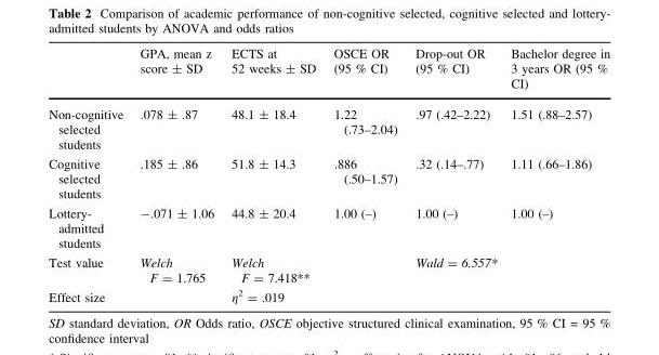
<table><thead><tr><td></td><td>GPA, mean z score ± SD</td><td>ECTS at 52 weeks ± SD</td><td>OSCE OR (95 % CI)</td><td>Drop-out OR (95 % CI)</td><td>Bachelor degree in 3 years OR (95 % CI)</td></tr></thead><tbody><tr><td>Non-cognitive selected students</td><td>.078 ± .87</td><td>48.1 ± 18.4</td><td>1.22 (.73–2.04)</td><td>.97 (.42–2.22)</td><td>1.51 (.88–2.57)</td></tr><tr><td>Cognitive selected students</td><td>.185 ± .86</td><td>51.8 ± 14.3</td><td>.886 (.50–1.57)</td><td>.32 (.14–.77)</td><td>1.11 (.66–1.86)</td></tr><tr><td>Lottery- admitted students</td><td>-.071 ± 1.06</td><td>44.8 ± 20.4</td><td>1.00 (–)</td><td>1.00 (–)</td><td>1.00 (–)</td></tr><tr><td>Test value</td><td>Welch F = 1.765</td><td>Welch F = 7.418**</td><td></td><td>Wald = 6.557*</td><td></td></tr><tr><td>Effect size</td><td></td><td>η<sup>2</sup> = .019</td><td></td><td></td><td></td></tr></tbody></table>